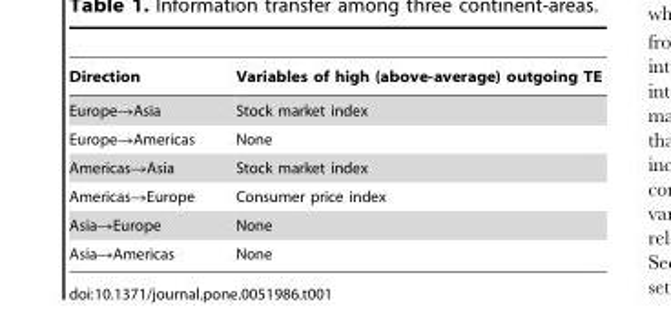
<table><thead><tr><td>Direction</td><td>Variables of high (above-average) outgoing TE</td></tr></thead><tbody><tr><td>Europe→Asia</td><td>Stock market index</td></tr><tr><td>Europe→Americas</td><td>None</td></tr><tr><td>Americas→Asia</td><td>Stock market index</td></tr><tr><td>Americas→Europe</td><td>Consumer price index</td></tr><tr><td>Asia→Europe</td><td>None</td></tr><tr><td>Asia→Americas</td><td>None</td></tr></tbody></table>